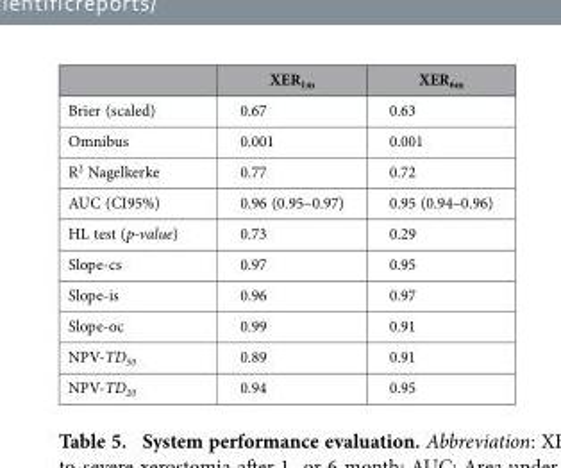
<table><thead><tr><td></td><td>XER<sub>1m</sub></td><td>XER<sub>6m</sub></td></tr></thead><tbody><tr><td>Brier (scaled)</td><td>0.67</td><td>0.63</td></tr><tr><td>Omnibus</td><td>0.001</td><td>0.001</td></tr><tr><td>R<sup>2</sup> Nagelkerke</td><td>0.77</td><td>0.72</td></tr><tr><td>AUC (CI95%)</td><td>0.96 (0.95–0.97)</td><td>0.95 (0.94–0.96)</td></tr><tr><td>HL test (p-value)</td><td>0.73</td><td>0.29</td></tr><tr><td>Slope-cs</td><td>0.97</td><td>0.95</td></tr><tr><td>Slope-is</td><td>0.96</td><td>0.97</td></tr><tr><td>Slope-oc</td><td>0.99</td><td>0.91</td></tr><tr><td>NPV-TD<sub>50</sub></td><td>0.89</td><td>0.91</td></tr><tr><td>NPV-TD<sub>20</sub></td><td>0.94</td><td>0.95</td></tr></tbody></table>